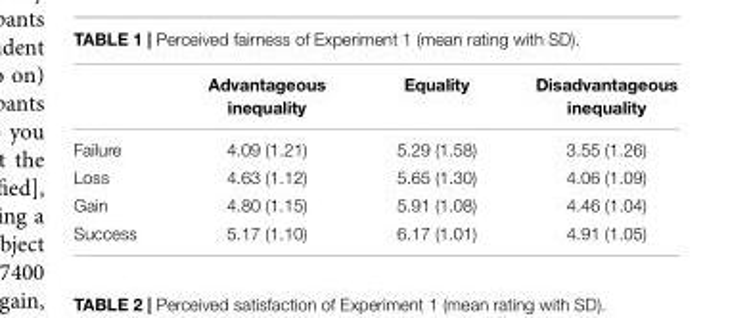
<table><thead><tr><td></td><td>Advantageous inequality</td><td>Equality</td><td>Disadvantageous inequality</td></tr></thead><tbody><tr><td>Failure</td><td>4.09 (1.21)</td><td>5.29 (1.58)</td><td>3.55 (1.26)</td></tr><tr><td>Loss</td><td>4.63 (1.12)</td><td>5.65 (1.30)</td><td>4.06 (1.09)</td></tr><tr><td>Gain</td><td>4.80 (1.15)</td><td>5.91 (1.08)</td><td>4.46 (1.04)</td></tr><tr><td>Success</td><td>5.17 (1.10)</td><td>6.17 (1.01)</td><td>4.91 (1.05)</td></tr></tbody></table>